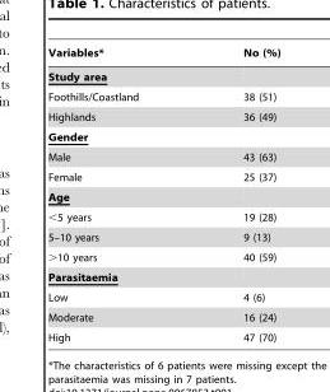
<table><thead><tr><td>Variables*</td><td>No (%)</td></tr></thead><tbody><tr><td colspan="2">Study area</td></tr><tr><td>Foothills/Coastland</td><td>38 (51)</td></tr><tr><td>Highlands</td><td>36 (49)</td></tr><tr><td colspan="2">Gender</td></tr><tr><td>Male</td><td>43 (63)</td></tr><tr><td>Female</td><td>25 (37)</td></tr><tr><td colspan="2">Age</td></tr><tr><td>&lt;5 years</td><td>19 (28)</td></tr><tr><td>5–10 years</td><td>9 (13)</td></tr><tr><td>&gt;10 years</td><td>40 (59)</td></tr><tr><td colspan="2">Parasitaemia</td></tr><tr><td>Low</td><td>4 (6)</td></tr><tr><td>Moderate</td><td>16 (24)</td></tr><tr><td>High</td><td>47 (70)</td></tr></tbody></table>